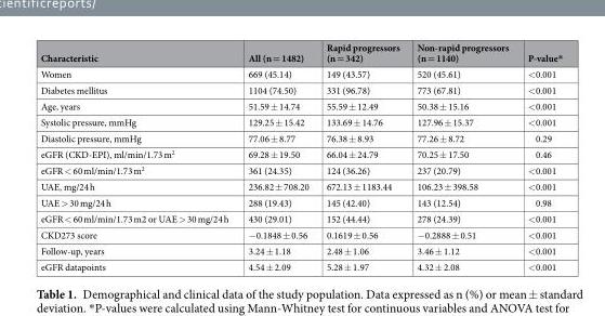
<table><thead><tr><td>Characteristic</td><td>All (n = 1482)</td><td>Rapid progressors (n = 342)</td><td>Non-rapid progressors (n = 1140)</td><td>P-value*</td></tr></thead><tbody><tr><td>Women</td><td>669 (45.14)</td><td>149 (43.57)</td><td>520 (45.61)</td><td>&lt;0.001</td></tr><tr><td>Diabetes mellitus</td><td>1104 (74.50)</td><td>331 (96.78)</td><td>773 (67.81)</td><td>&lt;0.001</td></tr><tr><td>Age, years</td><td>51.59 ± 14.74</td><td>55.59 ± 12.49</td><td>50.38 ± 15.16</td><td>&lt;0.001</td></tr><tr><td>Systolic pressure, mmHg</td><td>129.25 ± 15.42</td><td>133.69 ± 14.76</td><td>127.96 ± 15.37</td><td>&lt;0.001</td></tr><tr><td>Diastolic pressure, mmHg</td><td>77.06 ± 8.77</td><td>76.38 ± 8.93</td><td>77.26 ± 8.72</td><td>0.29</td></tr><tr><td>eGFR (CKD-EPI), ml/min/1.73 m<sup>2</sup></td><td>69.28 ± 19.50</td><td>66.04 ± 24.79</td><td>70.25 ± 17.50</td><td>0.46</td></tr><tr><td>eGFR &lt; 60 ml/min/1.73 m<sup>2</sup></td><td>361 (24.35)</td><td>124 (36.26)</td><td>237 (20.79)</td><td>&lt;0.001</td></tr><tr><td>UAE, mg/24 h</td><td>236.82 ± 708.20</td><td>672.13 ± 1183.44</td><td>106.23 ± 398.58</td><td>&lt;0.001</td></tr><tr><td>UAE &gt; 30 mg/24 h</td><td>288 (19.43)</td><td>145 (42.40)</td><td>143 (12.54)</td><td>0.98</td></tr><tr><td>eGFR &lt; 60 ml/min/1.73 m2 or UAE &gt; 30 mg/24 h</td><td>430 (29.01)</td><td>152 (44.44)</td><td>278 (24.39)</td><td>&lt;0.001</td></tr><tr><td>CKD273 score</td><td>−0.1848 ± 0.56</td><td>0.1619 ± 0.56</td><td>−0.2888 ± 0.51</td><td>&lt;0.001</td></tr><tr><td>Follow-up, years</td><td>3.24 ± 1.18</td><td>2.48 ± 1.06</td><td>3.46 ± 1.12</td><td>&lt;0.001</td></tr><tr><td>eGFR datapoints</td><td>4.54 ± 2.09</td><td>5.28 ± 1.97</td><td>4.32 ± 2.08</td><td>&lt;0.001</td></tr></tbody></table>